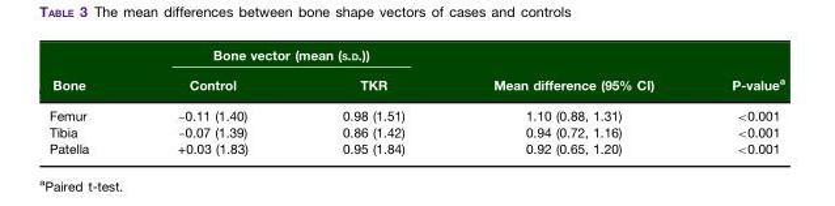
<table><thead><tr><td rowspan="2">Bone</td><td colspan="2">Bone vector (mean (S.D.))</td><td rowspan="2">Mean difference (95% CI)</td><td rowspan="2">P-value<sup>a</sup></td></tr><tr><td>Control</td><td>TKR</td></tr></thead><tbody><tr><td>Femur</td><td>–0.11 (1.40)</td><td>0.98 (1.51)</td><td>1.10 (0.88, 1.31)</td><td>&lt;0.001</td></tr><tr><td>Tibia</td><td>–0.07 (1.39)</td><td>0.86 (1.42)</td><td>0.94 (0.72, 1.16)</td><td>&lt;0.001</td></tr><tr><td>Patella</td><td>+0.03 (1.83)</td><td>0.95 (1.84)</td><td>0.92 (0.65, 1.20)</td><td>&lt;0.001</td></tr></tbody></table>